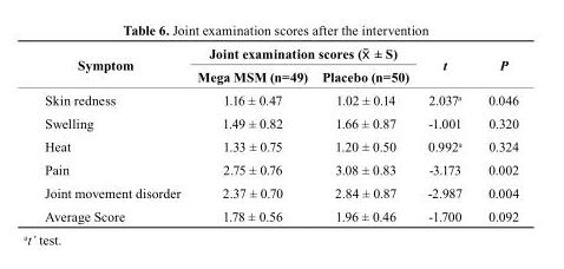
<table><thead><tr><td rowspan="2">symptom</td><td colspan="2">Joint examination scores (X ± S)</td><td rowspan="2">t</td><td rowspan="2">P</td></tr><tr><td>Mega MSM (n=49)</td><td>Placebo (n=50)</td></tr></thead><tbody><tr><td>Skin redness</td><td>1.16 ± 0.47</td><td>1.02 ± 0.14</td><td>2.037<sup>a</sup></td><td>0.046</td></tr><tr><td>Swelling</td><td>1.49 ± 0.82</td><td>1.66 ± 0.87</td><td>-1.001</td><td>0.320</td></tr><tr><td>Heat</td><td>1.33 ± 0.75</td><td>1.20 ± 0.50</td><td>0.992<sup>a</sup></td><td>0.324</td></tr><tr><td>Pain</td><td>2.75 ± 0.76</td><td>3.08 ± 0.83</td><td>-3.173</td><td>0.002</td></tr><tr><td>Joint movement disorder</td><td>2.37 ± 0.70</td><td>2.84 ± 0.87</td><td>-2.987</td><td>0.004</td></tr><tr><td>Average Score</td><td>1.78 ± 0.56</td><td>1.96 ± 0.46</td><td>-1.700</td><td>0.092</td></tr></tbody></table>